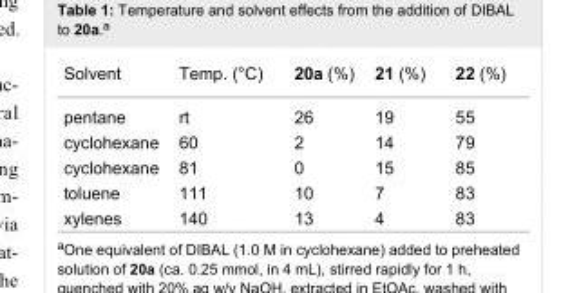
<table><tbody><tr><td>Solvent</td><td>Temp. (°C)</td><td>20a (%)</td><td>21 (%)</td><td>22 (%)</td></tr><tr><td>pentane</td><td>rt</td><td>26</td><td>19</td><td>55</td></tr><tr><td>cyclohexane</td><td>60</td><td>2</td><td>14</td><td>79</td></tr><tr><td>cyclohexane</td><td>81</td><td>0</td><td>15</td><td>85</td></tr><tr><td>toluene</td><td>111</td><td>10</td><td>7</td><td>83</td></tr><tr><td>xylenes</td><td>140</td><td>13</td><td>4</td><td>83</td></tr></tbody></table>